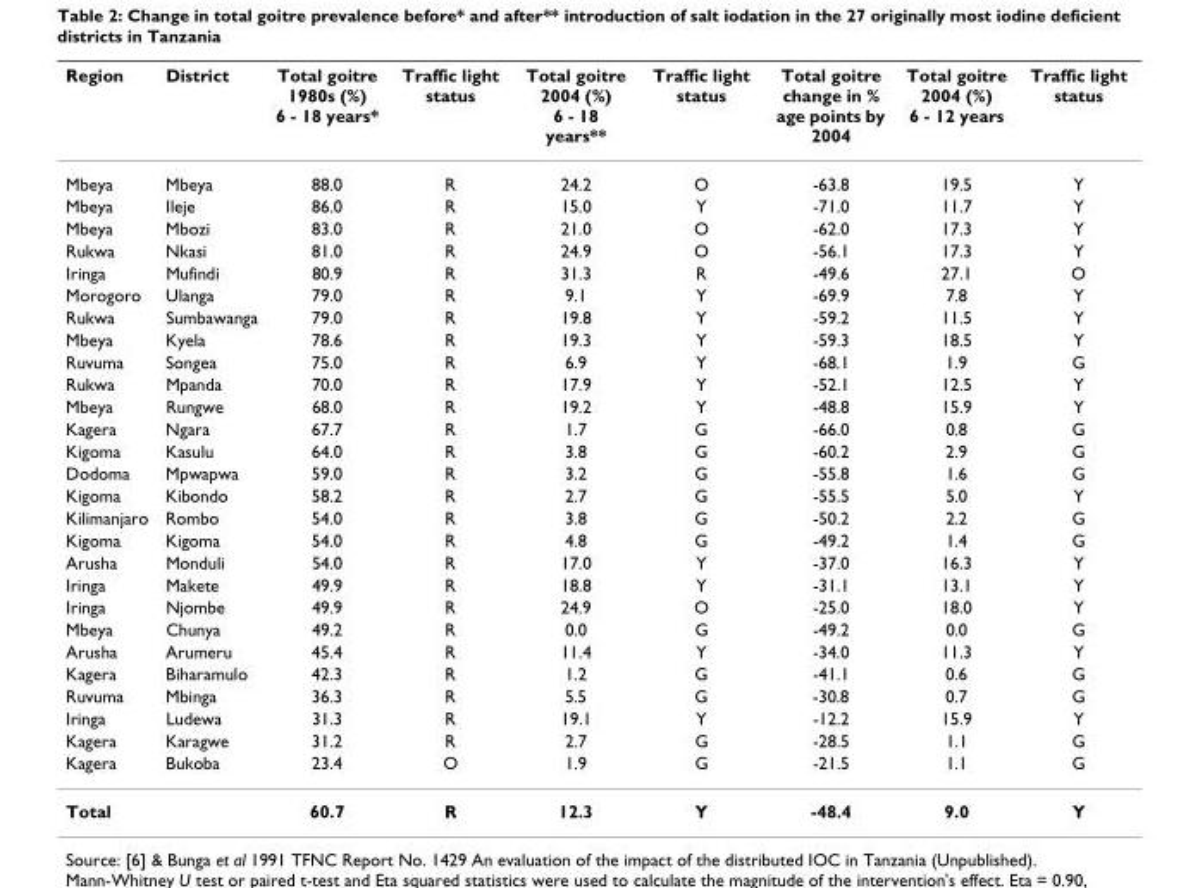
<table><thead><tr><td>Region</td><td>District</td><td>Total goitre 1980s (%) 6 - 18 years*</td><td>Traffic light status</td><td>Total goitre 2004 (%) 6 - 18 years**</td><td>Traffic light status</td><td>Total goitre change in % age points by 2004</td><td>Total goitre 2004 (%) 6 - 12 years</td><td>Traffic light status</td></tr></thead><tbody><tr><td>Mbeya</td><td>Mbeya</td><td>88.0</td><td>R</td><td>24.2</td><td>O</td><td>-63.8</td><td>19.5</td><td>Y</td></tr><tr><td>Mbeya</td><td>Ileje</td><td>86.0</td><td>R</td><td>15.0</td><td>Y</td><td>-71.0</td><td>11.7</td><td>Y</td></tr><tr><td>Mbeya</td><td>Mbozi</td><td>83.0</td><td>R</td><td>21.0</td><td>O</td><td>-62.0</td><td>17.3</td><td>Y</td></tr><tr><td>Rukwa</td><td>Nkasi</td><td>81.0</td><td>R</td><td>24.9</td><td>O</td><td>-56.1</td><td>17.3</td><td>Y</td></tr><tr><td>Iringa</td><td>Mufindi</td><td>80.9</td><td>R</td><td>31.3</td><td>R</td><td>-49.6</td><td>27.1</td><td>O</td></tr><tr><td>Morogoro</td><td>Ulanga</td><td>79.0</td><td>R</td><td>9.1</td><td>Y</td><td>-69.9</td><td>7.8</td><td>Y</td></tr><tr><td>Rukwa</td><td>Sumbawanga</td><td>79.0</td><td>R</td><td>19.8</td><td>Y</td><td>-59.2</td><td>11.5</td><td>Y</td></tr><tr><td>Mbeya</td><td>Kyela</td><td>78.6</td><td>R</td><td>19.3</td><td>Y</td><td>-59.3</td><td>18.5</td><td>Y</td></tr><tr><td>Ruvuma</td><td>Songea</td><td>75.0</td><td>R</td><td>6.9</td><td>Y</td><td>-68.1</td><td>1.9</td><td>G</td></tr><tr><td>Rukwa</td><td>Mpanda</td><td>70.0</td><td>R</td><td>17.9</td><td>Y</td><td>-52.1</td><td>12.5</td><td>Y</td></tr><tr><td>Mbeya</td><td>Rungwe</td><td>68.0</td><td>R</td><td>19.2</td><td>Y</td><td>-48.8</td><td>15.9</td><td>Y</td></tr><tr><td>Kagera</td><td>Ngara</td><td>67.7</td><td>R</td><td>1.7</td><td>G</td><td>-66.0</td><td>0.8</td><td>G</td></tr><tr><td>Kigoma</td><td>Kasulu</td><td>64.0</td><td>R</td><td>3.8</td><td>G</td><td>-60.2</td><td>2.9</td><td>G</td></tr><tr><td>Dodoma</td><td>Mpwapwa</td><td>59.0</td><td>R</td><td>3.2</td><td>G</td><td>-55.8</td><td>1.6</td><td>G</td></tr><tr><td>Kigoma</td><td>Kibondo</td><td>58.2</td><td>R</td><td>2.7</td><td>G</td><td>-55.5</td><td>5.0</td><td>Y</td></tr><tr><td>Kilimanjaro</td><td>Rombo</td><td>54.0</td><td>R</td><td>3.8</td><td>G</td><td>-50.2</td><td>2.2</td><td>G</td></tr><tr><td>Kigoma</td><td>Kigoma</td><td>54.0</td><td>R</td><td>4.8</td><td>G</td><td>-49.2</td><td>1.4</td><td>G</td></tr><tr><td>Arusha</td><td>Monduli</td><td>54.0</td><td>R</td><td>17.0</td><td>Y</td><td>-37.0</td><td>16.3</td><td>Y</td></tr><tr><td>Iringa</td><td>Makete</td><td>49.9</td><td>R</td><td>18.8</td><td>Y</td><td>-31.1</td><td>13.1</td><td>Y</td></tr><tr><td>Iringa</td><td>Njombe</td><td>49.9</td><td>R</td><td>24.9</td><td>O</td><td>-25.0</td><td>18.0</td><td>Y</td></tr><tr><td>Mbeya</td><td>Chunya</td><td>49.2</td><td>R</td><td>0.0</td><td>G</td><td>-49.2</td><td>0.0</td><td>G</td></tr><tr><td>Arusha</td><td>Arumeru</td><td>45.4</td><td>R</td><td>11.4</td><td>Y</td><td>-34.0</td><td>11.3</td><td>Y</td></tr><tr><td>Kagera</td><td>Biharamulo</td><td>42.3</td><td>R</td><td>1.2</td><td>G</td><td>-41.1</td><td>0.6</td><td>G</td></tr><tr><td>Ruvuma</td><td>Mbinga</td><td>36.3</td><td>R</td><td>5.5</td><td>G</td><td>-30.8</td><td>0.7</td><td>G</td></tr><tr><td>Iringa</td><td>Ludewa</td><td>31.3</td><td>R</td><td>19.1</td><td>Y</td><td>-12.2</td><td>15.9</td><td>Y</td></tr><tr><td>Kagera</td><td>Karagwe</td><td>31.2</td><td>R</td><td>2.7</td><td>G</td><td>-28.5</td><td>1.1</td><td>G</td></tr><tr><td>Kagera</td><td>Bukoba</td><td>23.4</td><td>O</td><td>1.9</td><td>G</td><td>-21.5</td><td>1.1</td><td>G</td></tr><tr><td>Total</td><td></td><td>60.7</td><td>R</td><td>12.3</td><td>Y</td><td>-48.4</td><td>9.0</td><td>Y</td></tr></tbody></table>